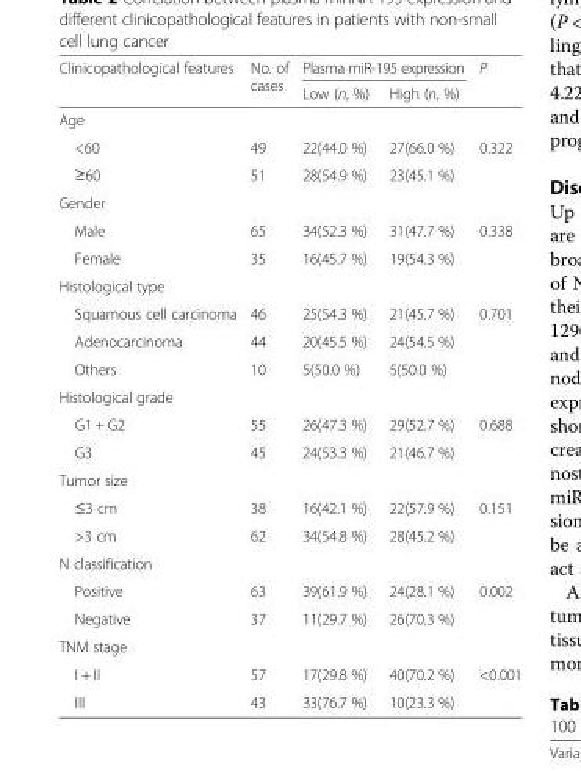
<table><thead><tr><td rowspan="2">Clinicopathological features</td><td rowspan="2">No. of cases</td><td colspan="2">Plasma miR-195 expression</td><td rowspan="2">P</td></tr><tr><td>Low (n, %)</td><td>High (n, %)</td></tr></thead><tbody><tr><td colspan="5">Age</td></tr><tr><td>&lt;60</td><td>49</td><td>22(44.0 %)</td><td>27(66.0 %)</td><td>0.322</td></tr><tr><td>≥60</td><td>51</td><td>28(54.9 %)</td><td>23(45.1 %)</td><td></td></tr><tr><td colspan="5">Gender</td></tr><tr><td>Male</td><td>65</td><td>34(52.3 %)</td><td>31(47.7 %)</td><td>0.338</td></tr><tr><td>Female</td><td>35</td><td>16(45.7 %)</td><td>19(54.3 %)</td><td></td></tr><tr><td colspan="5">Histological type</td></tr><tr><td>Squamous cell carcinoma</td><td>46</td><td>25(54.3 %)</td><td>21(45.7 %)</td><td>0.701</td></tr><tr><td>Adenocarcinoma</td><td>44</td><td>20(45.5 %)</td><td>24(54.5 %)</td><td></td></tr><tr><td>Others</td><td>10</td><td>5(50.0 %)</td><td>5(50.0 %)</td><td></td></tr><tr><td colspan="5">Histological grade</td></tr><tr><td>G1 + G2</td><td>55</td><td>26(47.3 %)</td><td>29(52.7 %)</td><td>0.688</td></tr><tr><td>G3</td><td>45</td><td>24(53.3 %)</td><td>21(46.7 %)</td><td></td></tr><tr><td colspan="5">Tumor size</td></tr><tr><td>≤3 cm</td><td>38</td><td>16(42.1 %)</td><td>22(57.9 %)</td><td>0.151</td></tr><tr><td>&gt;3 cm</td><td>62</td><td>34(54.8 %)</td><td>28(45.2 %)</td><td></td></tr><tr><td colspan="5">N classification</td></tr><tr><td>Positive</td><td>63</td><td>39(61.9 %)</td><td>24(28.1 %)</td><td>0.002</td></tr><tr><td>Negative</td><td>37</td><td>11(29.7 %)</td><td>26(70.3 %)</td><td></td></tr><tr><td colspan="5">TNM stage</td></tr><tr><td>I + II</td><td>57</td><td>17(29.8 %)</td><td>40(70.2 %)</td><td>&lt;0.001</td></tr><tr><td>III</td><td>43</td><td>33(76.7 %)</td><td>10(23.3 %)</td><td></td></tr></tbody></table>